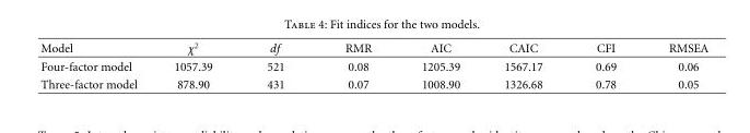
<table><thead><tr><td>Model</td><td>χ<sup>2</sup></td><td>df</td><td>RMR</td><td>AIC</td><td>CAIC</td><td>CFI</td><td>RMSEA</td></tr></thead><tbody><tr><td>Four-factor model</td><td>1057.39</td><td>521</td><td>0.08</td><td>1205.39</td><td>1567.17</td><td>0.69</td><td>0.06</td></tr><tr><td>Three-factor model</td><td>878.90</td><td>431</td><td>0.07</td><td>1008.90</td><td>1326.68</td><td>0.78</td><td>0.05</td></tr></tbody></table>